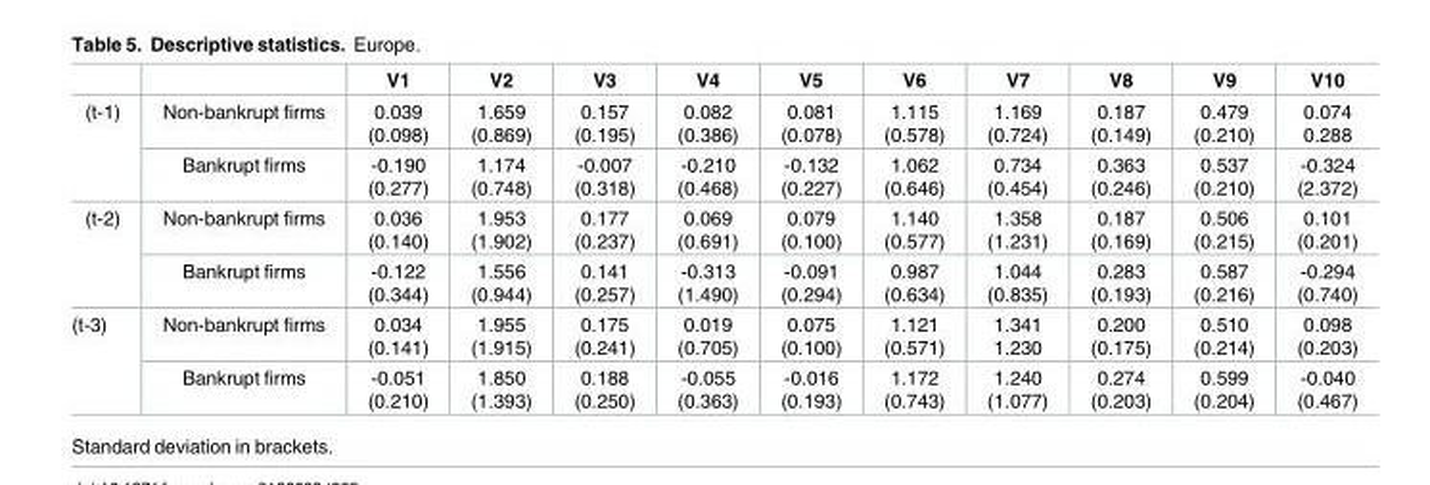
<table><thead><tr><td></td><td></td><td>V1</td><td>V2</td><td>V3</td><td>V4</td><td>V5</td><td>V6</td><td>V7</td><td>V8</td><td>V9</td><td>V10</td></tr></thead><tbody><tr><td rowspan="2">(t-1)</td><td>Non-bankrupt firms</td><td>0.039 (0.098)</td><td>1.659 (0.869)</td><td>0.157 (0.195)</td><td>0.082 (0.386)</td><td>0.081 (0.078)</td><td>1.115 (0.578)</td><td>1.169 (0.724)</td><td>0.187 (0.149)</td><td>0.479 (0.210)</td><td>0.074 0.288</td></tr><tr><td>Bankrupt firms</td><td>-0.190 (0.277)</td><td>1.174 (0.748)</td><td>-0.007 (0.318)</td><td>-0.210 (0.468)</td><td>-0.132 (0.227)</td><td>1.062 (0.646)</td><td>0.734 (0.454)</td><td>0.363 (0.246)</td><td>0.537 (0.210)</td><td>-0.324 (2.372)</td></tr><tr><td rowspan="2">(t-2)</td><td>Non-bankrupt firms</td><td>0.036 (0.140)</td><td>1.953 (1.902)</td><td>0.177 (0.237)</td><td>0.069 (0.691)</td><td>0.079 (0.100)</td><td>1.140 (0.577)</td><td>1.358 (1.231)</td><td>0.187 (0.169)</td><td>0.506 (0.215)</td><td>0.101 (0.201)</td></tr><tr><td>Bankrupt firms</td><td>-0.122 (0.344)</td><td>1.556 (0.944)</td><td>0.141 (0.257)</td><td>-0.313 (1.490)</td><td>-0.091 (0.294)</td><td>0.987 (0.634)</td><td>1.044 (0.835)</td><td>0.283 (0.193)</td><td>0.587 (0.216)</td><td>-0.294 (0.740)</td></tr><tr><td rowspan="2">(t-3)</td><td>Non-bankrupt firms</td><td>0.034 (0.141)</td><td>1.955 (1.915)</td><td>0.175 (0.241)</td><td>0.019 (0.705)</td><td>0.075 (0.100)</td><td>1.121 (0.571)</td><td>1.341 1.230</td><td>0.200 (0.175)</td><td>0.510 (0.214)</td><td>0.098 (0.203)</td></tr><tr><td>Bankrupt firms</td><td>-0.051 (0.210)</td><td>1.850 (1.393)</td><td>0.188 (0.250)</td><td>-0.055 (0.363)</td><td>-0.016 (0.193)</td><td>1.172 (0.743)</td><td>1.240 (1.077)</td><td>0.274 (0.203)</td><td>0.599 (0.204)</td><td>-0.040 (0.467)</td></tr></tbody></table>